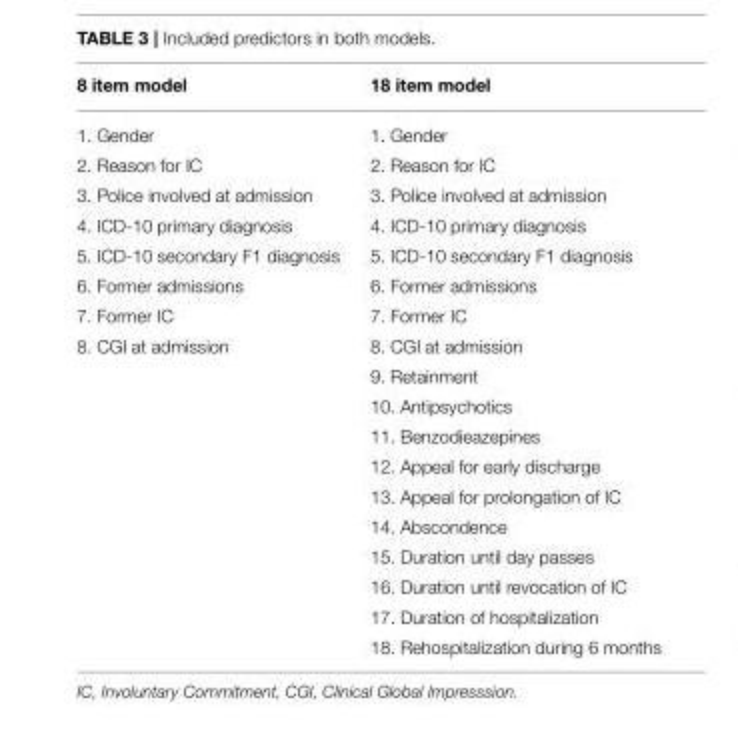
<table><thead><tr><td>8 item model</td><td>18 item model</td></tr></thead><tbody><tr><td>1. Gender</td><td>1. Gender</td></tr><tr><td>2. Reason for IC</td><td>2. Reason for IC</td></tr><tr><td>3. Police involved at admission</td><td>3. Police involved at admission</td></tr><tr><td>4. ICD-10 primary diagnosis</td><td>4. ICD-10 primary diagnosis</td></tr><tr><td>5. ICD-10 secondary F1 diagnosis</td><td>5. ICD-10 secondary F1 diagnosis</td></tr><tr><td>6. Former admissions</td><td>6. Former admissions</td></tr><tr><td>7. Former IC</td><td>7. Former IC</td></tr><tr><td rowspan="11">8. CGI at admission</td><td>8. CGI at admission</td></tr><tr><td>9. Retainment</td></tr><tr><td>10. Antipsychotics</td></tr><tr><td>11. Benzodieazepines</td></tr><tr><td>12. Appeal for early discharge</td></tr><tr><td>13. Appeal for prolongation of IC</td></tr><tr><td>14. Abscondence</td></tr><tr><td>15. Duration until day passes</td></tr><tr><td>16. Duration until revocation of IC</td></tr><tr><td>17. Duration of hospitalization</td></tr><tr><td>18. Rehospitalization during 6 months</td></tr></tbody></table>